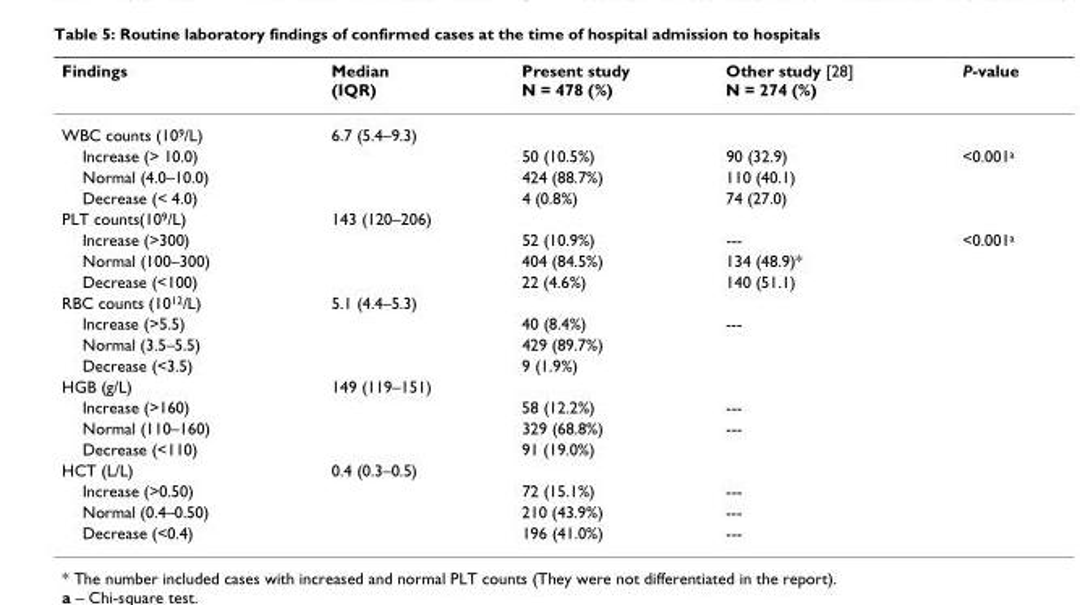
<table><thead><tr><td>Findings</td><td>Median (IQR)</td><td>Present study N = 478 (%)</td><td>Other study [28] N = 274 (%)</td><td>P-value</td></tr></thead><tbody><tr><td>WBC counts (10<sup>9</sup>/L)</td><td>6.7 (5.4–9.3)</td><td></td><td></td><td></td></tr><tr><td>Increase (&gt; 10.0)</td><td></td><td>50 (10.5%)</td><td>90 (32.9)</td><td>&lt;0.001<sup>a</sup></td></tr><tr><td>Normal (4.0–10.0)</td><td></td><td>424 (88.7%)</td><td>110 (40.1)</td><td></td></tr><tr><td>Decrease (&lt; 4.0)</td><td></td><td>4 (0.8%)</td><td>74 (27.0)</td><td></td></tr><tr><td>PLT counts(10<sup>9</sup>/L)</td><td>143 (120–206)</td><td></td><td></td><td></td></tr><tr><td>Increase (&gt;300)</td><td></td><td>52 (10.9%)</td><td>---</td><td>&lt;0.001<sup>a</sup></td></tr><tr><td>Normal (100–300)</td><td></td><td>404 (84.5%)</td><td>134 (48.9)*</td><td></td></tr><tr><td>Decrease (&lt;100)</td><td></td><td>22 (4.6%)</td><td>140 (51.1)</td><td></td></tr><tr><td>RBC counts (10<sup>12</sup>/L)</td><td>5.1 (4.4–5.3)</td><td></td><td></td><td></td></tr><tr><td>Increase (&gt;5.5)</td><td></td><td>40 (8.4%)</td><td>---</td><td></td></tr><tr><td>Normal (3.5–5.5)</td><td></td><td>429 (89.7%)</td><td></td><td></td></tr><tr><td>Decrease (&lt;3.5)</td><td></td><td>9 (1.9%)</td><td></td><td></td></tr><tr><td>HGB (g/L)</td><td>149 (119–151)</td><td></td><td></td><td></td></tr><tr><td>Increase (&gt;160)</td><td></td><td>58 (12.2%)</td><td>---</td><td></td></tr><tr><td>Normal (110–160)</td><td></td><td>329 (68.8%)</td><td>---</td><td></td></tr><tr><td>Decrease (&lt;110)</td><td></td><td>91 (19.0%)</td><td></td><td></td></tr><tr><td>HCT (L/L)</td><td>0.4 (0.3–0.5)</td><td></td><td></td><td></td></tr><tr><td>Increase (&gt;0.50)</td><td></td><td>72 (15.1%)</td><td>---</td><td></td></tr><tr><td>Normal (0.4–0.50)</td><td></td><td>210 (43.9%)</td><td>---</td><td></td></tr><tr><td>Decrease (&lt;0.4)</td><td></td><td>196 (41.0%)</td><td>---</td><td></td></tr></tbody></table>